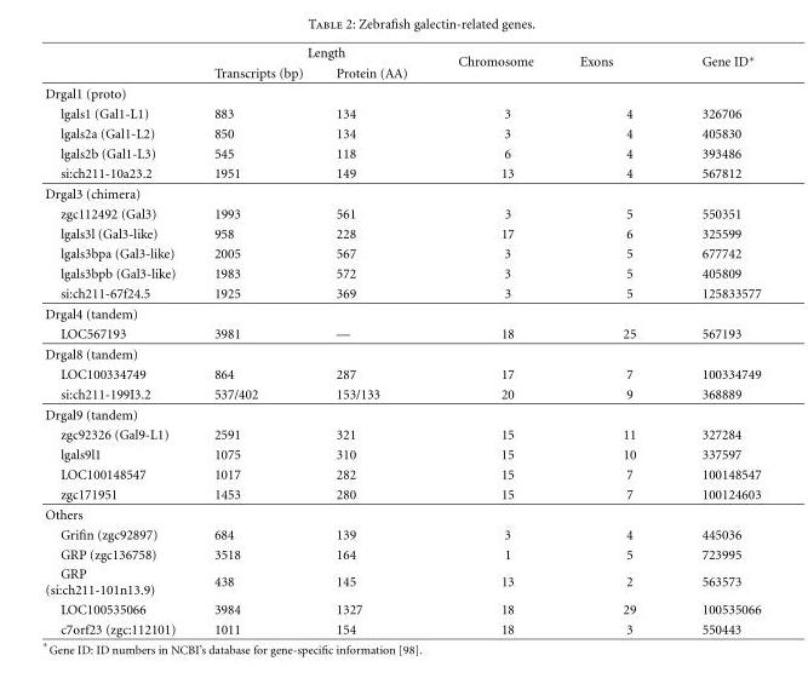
<table><thead><tr><td rowspan="2"></td><td colspan="2">Length</td><td rowspan="2">Chromosome</td><td rowspan="2">Exons</td><td rowspan="2">Gene ID∗</td></tr><tr><td>Transcripts (bp)</td><td>Protein (AA)</td></tr></thead><tbody><tr><td colspan="6">Drgal1 (proto)</td></tr><tr><td>lgals1 (Gal1-L1)</td><td>883</td><td>134</td><td>3</td><td>4</td><td>326706</td></tr><tr><td>lgals2a (Gal1-L2)</td><td>850</td><td>134</td><td>3</td><td>4</td><td>405830</td></tr><tr><td>lgals2b (Gal1-L3)</td><td>545</td><td>118</td><td>6</td><td>4</td><td>393486</td></tr><tr><td>si:ch211-10a23.2</td><td>1951</td><td>149</td><td>13</td><td>4</td><td>567812</td></tr><tr><td colspan="6">Drgal3 (chimera)</td></tr><tr><td>zgc112492 (Gal3)</td><td>1993</td><td>561</td><td>3</td><td>5</td><td>550351</td></tr><tr><td>lgals3l (Gal3-like)</td><td>958</td><td>228</td><td>17</td><td>6</td><td>325599</td></tr><tr><td>lgals3bpa (Gal3-like)</td><td>2005</td><td>567</td><td>3</td><td>5</td><td>677742</td></tr><tr><td>lgals3bpb (Gal3-like)</td><td>1983</td><td>572</td><td>3</td><td>5</td><td>405809</td></tr><tr><td>si:ch211-67f24.5</td><td>1925</td><td>369</td><td>3</td><td>5</td><td>125833577</td></tr><tr><td colspan="6">Drgal4 (tandem)</td></tr><tr><td>LOC567193</td><td>3981</td><td>—</td><td>18</td><td>25</td><td>567193</td></tr><tr><td colspan="6">Drgal8 (tandem)</td></tr><tr><td>LOC100334749</td><td>864</td><td>287</td><td>17</td><td>7</td><td>100334749</td></tr><tr><td>si:ch211-199I3.2</td><td>537/402</td><td>153/133</td><td>20</td><td>9</td><td>368889</td></tr><tr><td colspan="6">Drgal9 (tandem)</td></tr><tr><td>zgc92326 (Gal9-L1)</td><td>2591</td><td>321</td><td>15</td><td>11</td><td>327284</td></tr><tr><td>lgals9l1</td><td>1075</td><td>310</td><td>15</td><td>10</td><td>337597</td></tr><tr><td>LOC100148547</td><td>1017</td><td>282</td><td>15</td><td>7</td><td>100148547</td></tr><tr><td>zgc171951</td><td>1453</td><td>280</td><td>15</td><td>7</td><td>100124603</td></tr><tr><td colspan="6">Others</td></tr><tr><td>Grifin (zgc92897)</td><td>684</td><td>139</td><td>3</td><td>4</td><td>445036</td></tr><tr><td>GRP (zgc136758)</td><td>3518</td><td>164</td><td>1</td><td>5</td><td>723995</td></tr><tr><td>GRP (si:ch211-101n13.9)</td><td>438</td><td>145</td><td>13</td><td>2</td><td>563573</td></tr><tr><td>LOC100535066</td><td>3984</td><td>1327</td><td>18</td><td>29</td><td>100535066</td></tr><tr><td>c7orf23 (zgc:112101)</td><td>1011</td><td>154</td><td>18</td><td>3</td><td>550443</td></tr></tbody></table>